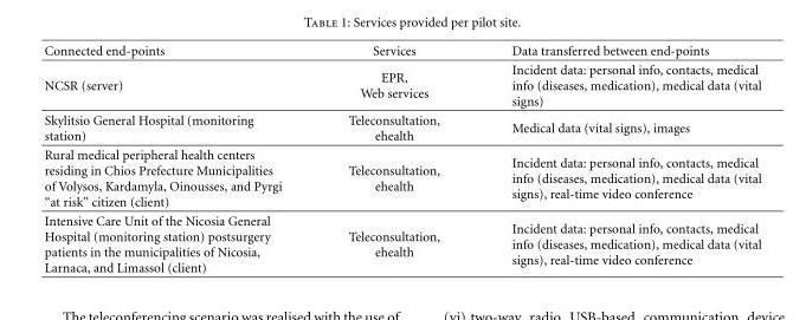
<table><thead><tr><td>Connected end-points</td><td>Services</td><td>Data transferred between end-points</td></tr></thead><tbody><tr><td>NCSR (server)</td><td>EPR, Web services</td><td>Incident data: personal info, contacts, medical info (diseases, medication), medical data (vital signs)</td></tr><tr><td>Skylitsio General Hospital (monitoring station)</td><td>Teleconsultation, ehealth</td><td>Medical data (vital signs), images</td></tr><tr><td>Rural medical peripheral health centers residing in Chios Prefecture Municipalities of Volysos, Kardamyla, Oinousses, and Pyrgi “at risk” citizen (client)</td><td>Teleconsultation, ehealth</td><td>Incident data: personal info, contacts, medical info (diseases, medication), medical data (vital signs), real-time video conference</td></tr><tr><td>Intensive Care Unit of the Nicosia General Hospital (monitoring station) postsurgery patients in the municipalities of Nicosia, Larnaca, and Limassol (client)</td><td>Teleconsultation, ehealth</td><td>Incident data: personal info, contacts, medical info (diseases, medication), medical data (vital signs), real-time video conference</td></tr></tbody></table>